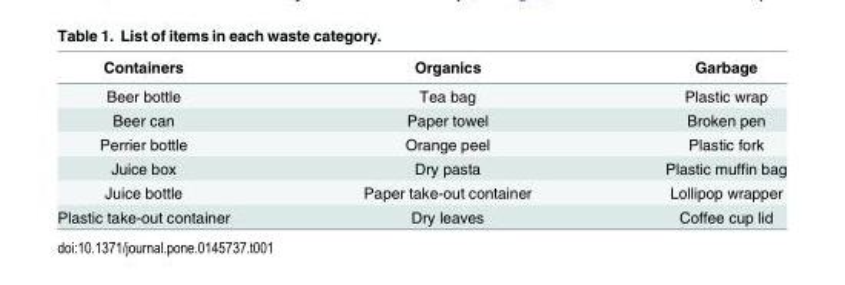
<table><thead><tr><td>Containers</td><td>Organics</td><td>Garbage</td></tr></thead><tbody><tr><td>Beer bottle</td><td>Tea bag</td><td>Plastic wrap</td></tr><tr><td>Beer can</td><td>Paper towel</td><td>Broken pen</td></tr><tr><td>Perrier bottle</td><td>Orange peel</td><td>Plastic fork</td></tr><tr><td>Juice box</td><td>Dry pasta</td><td>Plastic muffin bag</td></tr><tr><td>Juice bottle</td><td>Paper take-out container</td><td>Lollipop wrapper</td></tr><tr><td>Plastic take-out container</td><td>Dry leaves</td><td>Coffee cup lid</td></tr></tbody></table>